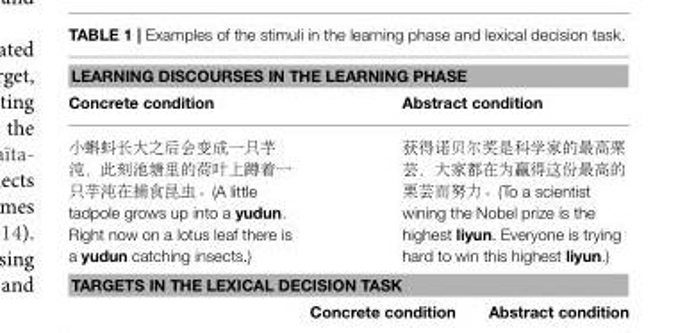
<table><thead><tr><td colspan="2">LEARNING DISCOURSES IN THE LEARNING PHASE</td></tr><tr><td>Concrete condition</td><td>Abstract condition</td></tr></thead><tbody><tr><td>小蝌蚪长大之后会变成一只芋 沌，此刻池塘里的荷叶上蹲着一 只芋沌在捕食昆虫。(A little tadpole grows up into a yudun. Right now on a lotus leaf there is a yudun catching insects.)</td><td>获得诺贝尔奖是科学家的最高栗 芸，大家都在为赢得这份最高的 栗芸而努力。(To a scientist wining the Nobel prize is the highest liyun. Everyone is trying hard to win this highest liyun.)</td></tr></tbody></table>